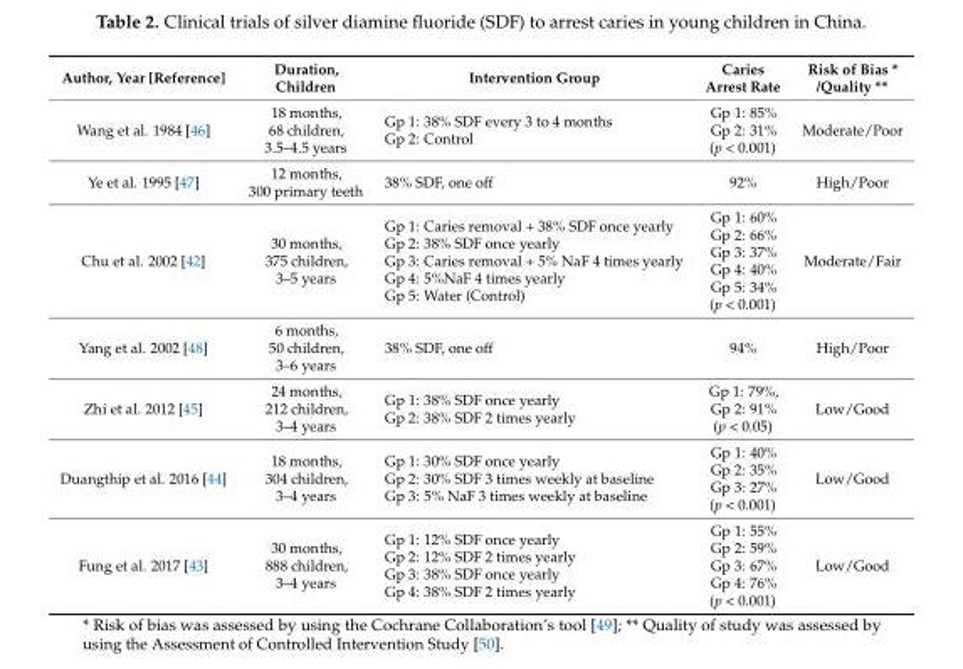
<table><thead><tr><td>Author, Year [Reference]</td><td>Duration, Children</td><td>Intervention Group</td><td>Caries Arrest Rate</td><td>Risk of Bias * /Quality **</td></tr></thead><tbody><tr><td>Wang et al. 1984 [46]</td><td>18 months, 68 children, 3.5–4.5 years</td><td>Gp 1: 38% SDF every 3 to 4 months Gp 2: Control</td><td>Gp 1: 85% Gp 2: 31% (p &lt; 0.001)</td><td>Moderate/Poor</td></tr><tr><td>Ye et al. 1995 [47]</td><td>12 months, 300 primary teeth</td><td>38% SDF, one off</td><td>92%</td><td>High/Poor</td></tr><tr><td>Chu et al. 2002 [42]</td><td>30 months, 375 children, 3–5 years</td><td>Gp 1: Caries removal + 38% SDF once yearly Gp 2: 38% SDF once yearly Gp 3: Caries removal + 5% NaF 4 times yearly Gp 4: 5%NaF 4 times yearly Gp 5: Water (Control)</td><td>Gp 1: 60% Gp 2: 66% Gp 3: 37% Gp 4: 40% Gp 5: 34% (p &lt; 0.001)</td><td>Moderate/Fair</td></tr><tr><td>Yang et al. 2002 [48]</td><td>6 months, 50 children, 3–6 years</td><td>38% SDF, one off</td><td>94%</td><td>High/Poor</td></tr><tr><td>Zhi et al. 2012 [45]</td><td>24 months, 212 children, 3–4 years</td><td>Gp 1: 38% SDF once yearly Gp 2: 38% SDF 2 times yearly</td><td>Gp 1: 79%, Gp 2: 91% (p &lt; 0.05)</td><td>Low/Good</td></tr><tr><td>Duangthip et al. 2016 [44]</td><td>18 months, 304 children, 3–4 years</td><td>Gp 1: 30% SDF once yearly Gp 2: 30% SDF 3 times weekly at baseline Gp 3: 5% NaF 3 times weekly at baseline</td><td>Gp 1: 40% Gp 2: 35% Gp 3: 27% (p &lt; 0.001)</td><td>Low/Good</td></tr><tr><td>Fung et al. 2017 [43]</td><td>30 months, 888 children, 3–4 years</td><td>Gp 1: 12% SDF once yearly Gp 2: 12% SDF 2 times yearly Gp 3: 38% SDF once yearly Gp 4: 38% SDF 2 times yearly</td><td>Gp 1: 55% Gp 2: 59% Gp 3: 67% Gp 4: 76% (p &lt; 0.001)</td><td>Low/Good</td></tr></tbody></table>